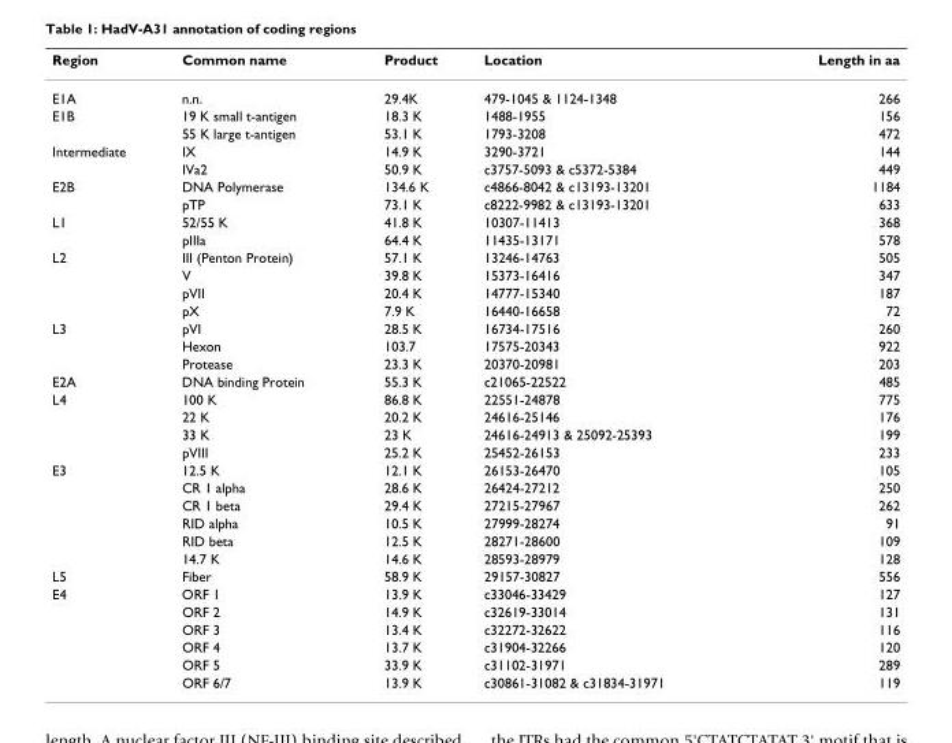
<table><thead><tr><td>Region</td><td>Common name</td><td>Product</td><td>Location</td><td>Length in aa</td></tr></thead><tbody><tr><td>E1A</td><td>n.n.</td><td>29.4K</td><td>479-1045 &amp; 1124-1348</td><td>266</td></tr><tr><td rowspan="2">E1B</td><td>19 K small t-antigen</td><td>18.3 K</td><td>1488-1955</td><td>156</td></tr><tr><td>55 K large t-antigen</td><td>53.1 K</td><td>1793-3208</td><td>472</td></tr><tr><td rowspan="2">Intermediate</td><td>IX</td><td>14.9 K</td><td>3290-3721</td><td>144</td></tr><tr><td>IVa2</td><td>50.9 K</td><td>c3757-5093 &amp; c5372-5384</td><td>449</td></tr><tr><td rowspan="2">E2B</td><td>DNA Polymerase</td><td>134.6 K</td><td>c4866-8042 &amp; c13193-13201</td><td>1184</td></tr><tr><td>pTP</td><td>73.1 K</td><td>c8222-9982 &amp; c13193-13201</td><td>633</td></tr><tr><td rowspan="2">L1</td><td>52/55 K</td><td>41.8 K</td><td>10307-11413</td><td>368</td></tr><tr><td>pIIIa</td><td>64.4 K</td><td>11435-13171</td><td>578</td></tr><tr><td rowspan="4">L2</td><td>III (Penton Protein)</td><td>57.1 K</td><td>13246-14763</td><td>505</td></tr><tr><td>V</td><td>39.8 K</td><td>15373-16416</td><td>347</td></tr><tr><td>pVII</td><td>20.4 K</td><td>14777-15340</td><td>187</td></tr><tr><td>pX</td><td>7.9 K</td><td>16440-16658</td><td>72</td></tr><tr><td rowspan="3">L3</td><td>pVI</td><td>28.5 K</td><td>16734-17516</td><td>260</td></tr><tr><td>Hexon</td><td>103.7</td><td>17575-20343</td><td>922</td></tr><tr><td>Protease</td><td>23.3 K</td><td>20370-20981</td><td>203</td></tr><tr><td>E2A</td><td>DNA binding Protein</td><td>55.3 K</td><td>c21065-22522</td><td>485</td></tr><tr><td rowspan="4">L4</td><td>100 K</td><td>86.8 K</td><td>22551-24878</td><td>775</td></tr><tr><td>22 K</td><td>20.2 K</td><td>24616-25146</td><td>176</td></tr><tr><td>33 K</td><td>23 K</td><td>24616-24913 &amp; 25092-25393</td><td>199</td></tr><tr><td>pVIII</td><td>25.2 K</td><td>25452-26153</td><td>233</td></tr><tr><td rowspan="6">E3</td><td>12.5 K</td><td>12.1 K</td><td>26153-26470</td><td>105</td></tr><tr><td>CR 1 alpha</td><td>28.6 K</td><td>26424-27212</td><td>250</td></tr><tr><td>CR 1 beta</td><td>29.4 K</td><td>27215-27967</td><td>262</td></tr><tr><td>RID alpha</td><td>10.5 K</td><td>27999-28274</td><td>91</td></tr><tr><td>RID beta</td><td>12.5 K</td><td>28271-28600</td><td>109</td></tr><tr><td>14.7 K</td><td>14.6 K</td><td>28593-28979</td><td>128</td></tr><tr><td>L5</td><td>Fiber</td><td>58.9 K</td><td>29157-30827</td><td>556</td></tr><tr><td rowspan="6">E4</td><td>ORF 1</td><td>13.9 K</td><td>c33046-33429</td><td>127</td></tr><tr><td>ORF 2</td><td>14.9 K</td><td>c32619-33014</td><td>131</td></tr><tr><td>ORF 3</td><td>13.4 K</td><td>c32272-32622</td><td>116</td></tr><tr><td>ORF 4</td><td>13.7 K</td><td>c31904-32266</td><td>120</td></tr><tr><td>ORF 5</td><td>33.9 K</td><td>c31102-31971</td><td>289</td></tr><tr><td>ORF 6/7</td><td>13.9 K</td><td>c30861-31082 &amp; c31834-31971</td><td>119</td></tr></tbody></table>